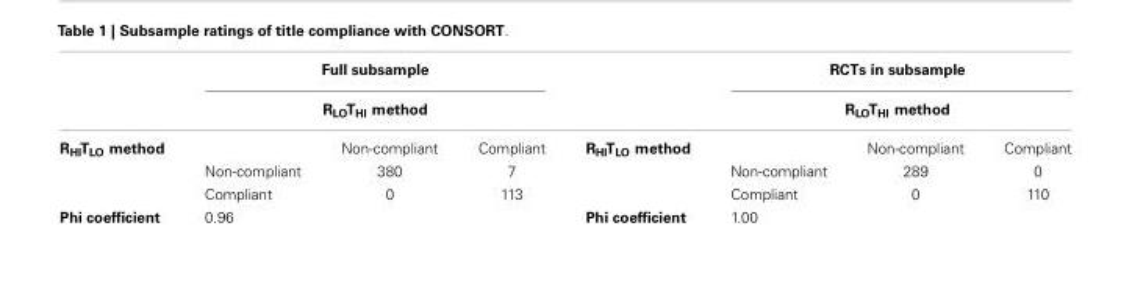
<table><thead><tr><td rowspan="3">R<sub>HI</sub>T<sub>LO</sub> method</td><td rowspan="2" colspan="3">Full subsample R<sub>LO</sub>T<sub>HI</sub> method</td><td rowspan="3">R<sub>HI</sub>T<sub>LO</sub> method</td><td rowspan="2" colspan="3">RCTs in subsample R<sub>LO</sub>T<sub>HI</sub> method</td></tr><tr></tr><tr><td></td><td>Non-compliant</td><td>Compliant</td><td></td><td>Non-compliant</td><td>Compliant</td></tr></thead><tbody><tr><td></td><td>Non-compliant</td><td>380</td><td>7</td><td></td><td>Non-compliant</td><td>289</td><td>0</td></tr><tr><td></td><td>Compliant</td><td>0</td><td>113</td><td></td><td>Compliant</td><td>0</td><td>110</td></tr><tr><td>Phi coefficient</td><td>0.96</td><td></td><td></td><td>Phi coefficient</td><td>1.00</td><td></td><td></td></tr></tbody></table>